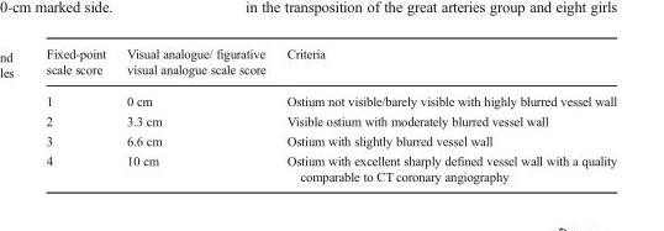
<table><thead><tr><td>Fixed-point scale score</td><td>Visual analogue/ figurative visual analogue scale score</td><td>Criteria</td></tr></thead><tbody><tr><td>1</td><td>0 cm</td><td>Ostium not visible/barely visible with highly blurred vessel wall</td></tr><tr><td>2</td><td>3.3 cm</td><td>Visible ostium with moderately blurred vessel wall</td></tr><tr><td>3</td><td>6.6 cm</td><td>Ostium with slightly blurred vessel wall</td></tr><tr><td>4</td><td>10 cm</td><td>Ostium with excellent sharply defined vessel wall with a quality comparable to CT coronary angiography</td></tr></tbody></table>